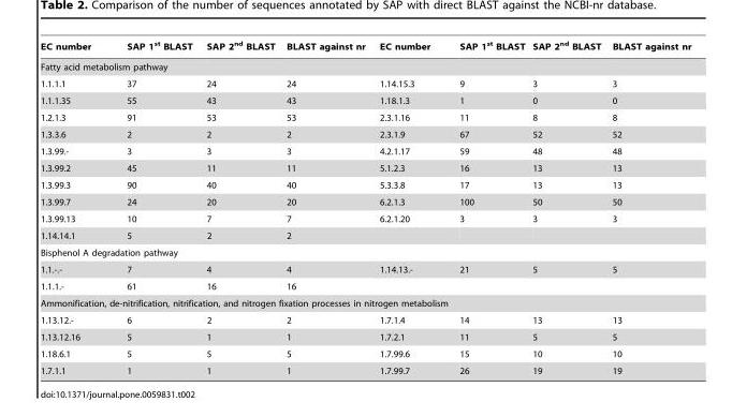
<table><thead><tr><td>EC number</td><td>SAP 1<sup>st</sup> BLAST</td><td>SAP 2<sup>nd</sup> BLAST</td><td>BLAST against nr</td><td>EC number</td><td>SAP 1<sup>st</sup> BLAST</td><td>SAP 2<sup>nd</sup> BLAST</td><td>BLAST against nr</td></tr></thead><tbody><tr><td colspan="8">Fatty acid metabolism pathway</td></tr><tr><td>1.1.1.1</td><td>37</td><td>24</td><td>24</td><td>1.14.15.3</td><td>9</td><td>3</td><td>3</td></tr><tr><td>1.1.1.35</td><td>55</td><td>43</td><td>43</td><td>1.18.1.3</td><td>1</td><td>0</td><td>0</td></tr><tr><td>1.2.1.3</td><td>91</td><td>53</td><td>53</td><td>2.3.1.16</td><td>11</td><td>8</td><td>8</td></tr><tr><td>1.3.3.6</td><td>2</td><td>2</td><td>2</td><td>2.3.1.9</td><td>67</td><td>52</td><td>52</td></tr><tr><td>1.3.99.-</td><td>3</td><td>3</td><td>3</td><td>4.2.1.17</td><td>59</td><td>48</td><td>48</td></tr><tr><td>1.3.99.2</td><td>45</td><td>11</td><td>11</td><td>5.1.2.3</td><td>16</td><td>13</td><td>13</td></tr><tr><td>1.3.99.3</td><td>90</td><td>40</td><td>40</td><td>5.3.3.8</td><td>17</td><td>13</td><td>13</td></tr><tr><td>1.3.99.7</td><td>24</td><td>20</td><td>20</td><td>6.2.1.3</td><td>100</td><td>50</td><td>50</td></tr><tr><td>1.3.99.13</td><td>10</td><td>7</td><td>7</td><td>6.2.1.20</td><td>3</td><td>3</td><td>3</td></tr><tr><td>1.14.14.1</td><td>5</td><td>2</td><td>2</td><td></td><td></td><td></td><td></td></tr><tr><td colspan="8">Bisphenol A degradation pathway</td></tr><tr><td>1.1.-.-</td><td>7</td><td>4</td><td>4</td><td>1.14.13.-</td><td>21</td><td>5</td><td>5</td></tr><tr><td>1.1.1.-</td><td>61</td><td>16</td><td>16</td><td></td><td></td><td></td><td></td></tr><tr><td colspan="8">Ammonification, de-nitrification, nitrification, and nitrogen fixation processes in nitrogen metabolism</td></tr><tr><td>1.13.12.-</td><td>6</td><td>2</td><td>2</td><td>1.7.1.4</td><td>14</td><td>13</td><td>13</td></tr><tr><td>1.13.12.16</td><td>5</td><td>1</td><td>1</td><td>1.7.2.1</td><td>11</td><td>5</td><td>5</td></tr><tr><td>1.18.6.1</td><td>5</td><td>5</td><td>5</td><td>1.7.99.6</td><td>15</td><td>10</td><td>10</td></tr><tr><td>1.7.1.1</td><td>1</td><td>1</td><td>1</td><td>1.7.99.7</td><td>26</td><td>19</td><td>19</td></tr></tbody></table>